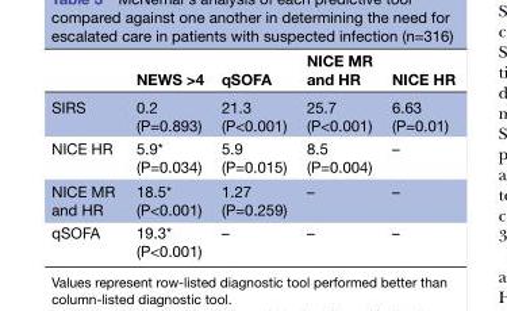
<table><thead><tr><td></td><td>NEWS &gt;4</td><td>qSOFA</td><td>NICE MR and HR</td><td>NICE HR</td></tr></thead><tbody><tr><td>SIRS</td><td>0.2 (P=0.893)</td><td>21.3 (P&lt;0.001)</td><td>25.7 (P&lt;0.001)</td><td>6.63 (P=0.01)</td></tr><tr><td>NICE HR</td><td>5.9* (P=0.034)</td><td>5.9 (P=0.015)</td><td>8.5 (P=0.004)</td><td>–</td></tr><tr><td>NICE MR and HR</td><td>18.5* (P&lt;0.001)</td><td>1.27 (P=0.259)</td><td>–</td><td>–</td></tr><tr><td>qSOFA</td><td>19.3* (P&lt;0.001)</td><td>–</td><td>–</td><td>–</td></tr></tbody></table>